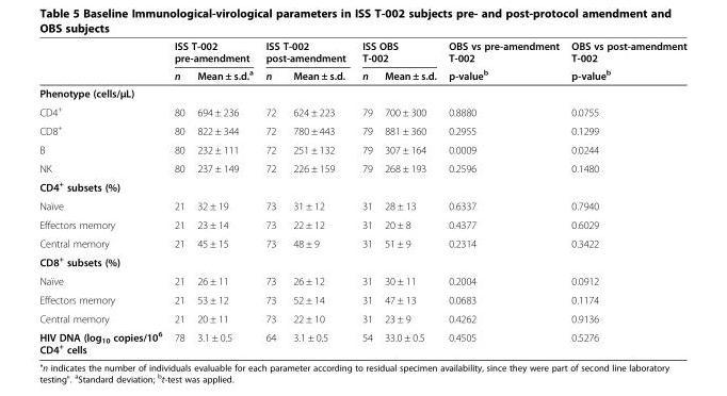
<table><thead><tr><td rowspan="2"></td><td colspan="2">ISS T-002 pre-amendment</td><td colspan="2">ISS T-002 post-amendment</td><td colspan="2">ISS OBS T-002</td><td rowspan="2">OBS vs pre-amendment T-002 p-value<sup>b</sup></td><td rowspan="2">OBS vs post-amendment T-002 p-value<sup>b</sup></td></tr><tr><td>n</td><td>Mean ± s.d.<sup>a</sup></td><td>n</td><td>Mean ± s.d.</td><td>n</td><td>Mean ± s.d.</td></tr></thead><tbody><tr><td colspan="9">Phenotype (cells/μL)</td></tr><tr><td>CD4<sup>+</sup></td><td>80</td><td>694 ± 236</td><td>72</td><td>624 ± 223</td><td>79</td><td>700 ± 300</td><td>0.8880</td><td>0.0755</td></tr><tr><td>CD8<sup>+</sup></td><td>80</td><td>822 ± 344</td><td>72</td><td>780 ± 443</td><td>79</td><td>881 ± 360</td><td>0.2955</td><td>0.1299</td></tr><tr><td>B</td><td>80</td><td>232 ± 111</td><td>72</td><td>251 ± 132</td><td>79</td><td>307 ± 164</td><td>0.0009</td><td>0.0244</td></tr><tr><td>NK</td><td>80</td><td>237 ± 149</td><td>72</td><td>226 ± 159</td><td>79</td><td>268 ± 193</td><td>0.2596</td><td>0.1480</td></tr><tr><td colspan="9">CD4<sup>+</sup> subsets (%)</td></tr><tr><td>Naïve</td><td>21</td><td>32 ± 19</td><td>73</td><td>31 ± 12</td><td>31</td><td>28 ± 13</td><td>0.6337</td><td>0.7940</td></tr><tr><td>Effectors memory</td><td>21</td><td>23 ± 14</td><td>73</td><td>22 ± 12</td><td>31</td><td>20 ± 8</td><td>0.4377</td><td>0.6029</td></tr><tr><td>Central memory</td><td>21</td><td>45 ± 15</td><td>73</td><td>48 ± 9</td><td>31</td><td>51 ± 9</td><td>0.2314</td><td>0.3422</td></tr><tr><td colspan="9">CD8<sup>+</sup> subsets (%)</td></tr><tr><td>Naïve</td><td>21</td><td>26 ± 11</td><td>73</td><td>26 ± 12</td><td>31</td><td>30 ± 11</td><td>0.2004</td><td>0.0912</td></tr><tr><td>Effectors memory</td><td>21</td><td>53 ± 12</td><td>73</td><td>52 ± 14</td><td>31</td><td>47 ± 13</td><td>0.0683</td><td>0.1174</td></tr><tr><td>Central memory</td><td>21</td><td>20 ± 11</td><td>73</td><td>22 ± 10</td><td>31</td><td>23 ± 9</td><td>0.4262</td><td>0.9136</td></tr><tr><td>HIV DNA (log<sub>10</sub> copies/10<sup>6</sup> CD4<sup>+</sup> cells</td><td>78</td><td>3.1 ± 0.5</td><td>64</td><td>3.1 ± 0.5</td><td>54</td><td>33.0 ± 0.5</td><td>0.4505</td><td>0.5276</td></tr></tbody></table>